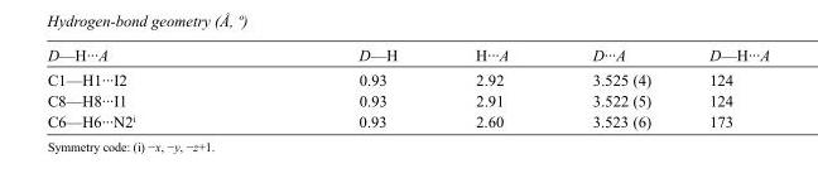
<table><tbody><tr><td>D—H···A</td><td>D—H</td><td>H···A</td><td>D···A</td><td>D—H···A</td></tr><tr><td>C1—H1···I2</td><td>0.93</td><td>2.92</td><td>3.525 (4)</td><td>124</td></tr><tr><td>C8—H8···I1</td><td>0.93</td><td>2.91</td><td>3.522 (5)</td><td>124</td></tr><tr><td>C6—H6···N2<sup>i</sup></td><td>0.93</td><td>2.60</td><td>3.523 (6)</td><td>173</td></tr></tbody></table>